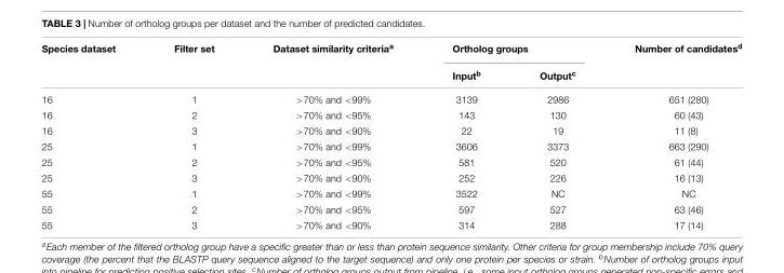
<table><thead><tr><td rowspan="2">Species dataset</td><td rowspan="2">Filter set</td><td rowspan="2">Dataset similarity criteria<sup>a</sup></td><td colspan="2">Ortholog groups</td><td rowspan="2">Number of candidates<sup>d</sup></td></tr><tr><td>Input<sup>b</sup></td><td>Output<sup>c</sup></td></tr></thead><tbody><tr><td>16</td><td>1</td><td>&gt;70% and &lt;99%</td><td>3139</td><td>2986</td><td>651 (280)</td></tr><tr><td>16</td><td>2</td><td>&gt;70% and &lt;95%</td><td>143</td><td>130</td><td>60 (43)</td></tr><tr><td>16</td><td>3</td><td>&gt;70% and &lt;90%</td><td>22</td><td>19</td><td>11 (8)</td></tr><tr><td>25</td><td>1</td><td>&gt;70% and &lt;99%</td><td>3606</td><td>3373</td><td>663 (290)</td></tr><tr><td>25</td><td>2</td><td>&gt;70% and &lt;95%</td><td>581</td><td>520</td><td>61 (44)</td></tr><tr><td>25</td><td>3</td><td>&gt;70% and &lt;90%</td><td>252</td><td>226</td><td>16 (13)</td></tr><tr><td>55</td><td>1</td><td>&gt;70% and &lt;99%</td><td>3522</td><td>NC</td><td>NC</td></tr><tr><td>55</td><td>2</td><td>&gt;70% and &lt;95%</td><td>597</td><td>527</td><td>63 (46)</td></tr><tr><td>55</td><td>3</td><td>&gt;70% and &lt;90%</td><td>314</td><td>288</td><td>17 (14)</td></tr></tbody></table>